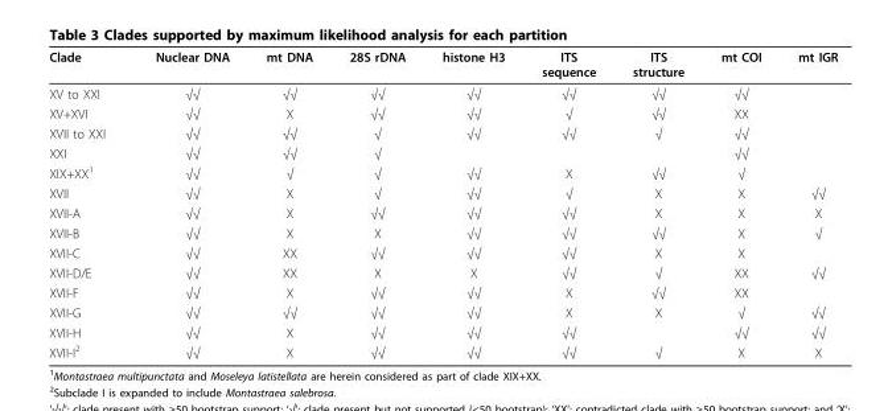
<table><thead><tr><td>Clade</td><td>Nuclear DNA</td><td>mt DNA</td><td>28S rDNA</td><td>histone H3</td><td>ITS sequence</td><td>ITS structure</td><td>mt COI</td><td>mt IGR</td></tr></thead><tbody><tr><td>XV to XXI</td><td>√√</td><td>√√</td><td>√√</td><td>√√</td><td>√√</td><td>√√</td><td>√√</td><td></td></tr><tr><td>XV+XVI</td><td>√√</td><td>X</td><td>√√</td><td>√√</td><td>√</td><td>√√</td><td>XX</td><td></td></tr><tr><td>XVII to XXI</td><td>√√</td><td>√√</td><td>√</td><td>√√</td><td>√√</td><td>√</td><td>√√</td><td></td></tr><tr><td>XXI</td><td>√√</td><td>√√</td><td>√</td><td></td><td></td><td></td><td>√√</td><td></td></tr><tr><td>XIX+XX<sup>1</sup></td><td>√√</td><td>√</td><td>√</td><td>√√</td><td>X</td><td>√√</td><td>√</td><td></td></tr><tr><td>XVII</td><td>√√</td><td>X</td><td>√</td><td>√√</td><td>√</td><td>X</td><td>X</td><td>√√</td></tr><tr><td>XVII-A</td><td>√√</td><td>X</td><td>√√</td><td>√√</td><td>√√</td><td>X</td><td>X</td><td>X</td></tr><tr><td>XVII-B</td><td>√√</td><td>X</td><td>X</td><td>√√</td><td>√√</td><td>√√</td><td>X</td><td>√</td></tr><tr><td>XVII-C</td><td>√√</td><td>XX</td><td>√√</td><td>√√</td><td>√√</td><td>X</td><td>X</td><td></td></tr><tr><td>XVII-D/E</td><td>√√</td><td>XX</td><td>X</td><td>X</td><td>√√</td><td>√</td><td>XX</td><td>√√</td></tr><tr><td>XVII-F</td><td>√√</td><td>X</td><td>√√</td><td>√√</td><td>X</td><td>√√</td><td>XX</td><td></td></tr><tr><td>XVII-G</td><td>√√</td><td>√√</td><td>√√</td><td>√√</td><td>X</td><td>X</td><td>√</td><td>√√</td></tr><tr><td>XVII-H</td><td>√√</td><td>X</td><td>√√</td><td>√√</td><td>√√</td><td></td><td>√√</td><td>√√</td></tr><tr><td>XVII-I<sup>2</sup></td><td>√√</td><td>X</td><td>√√</td><td>√√</td><td>√√</td><td>√</td><td>X</td><td>X</td></tr></tbody></table>